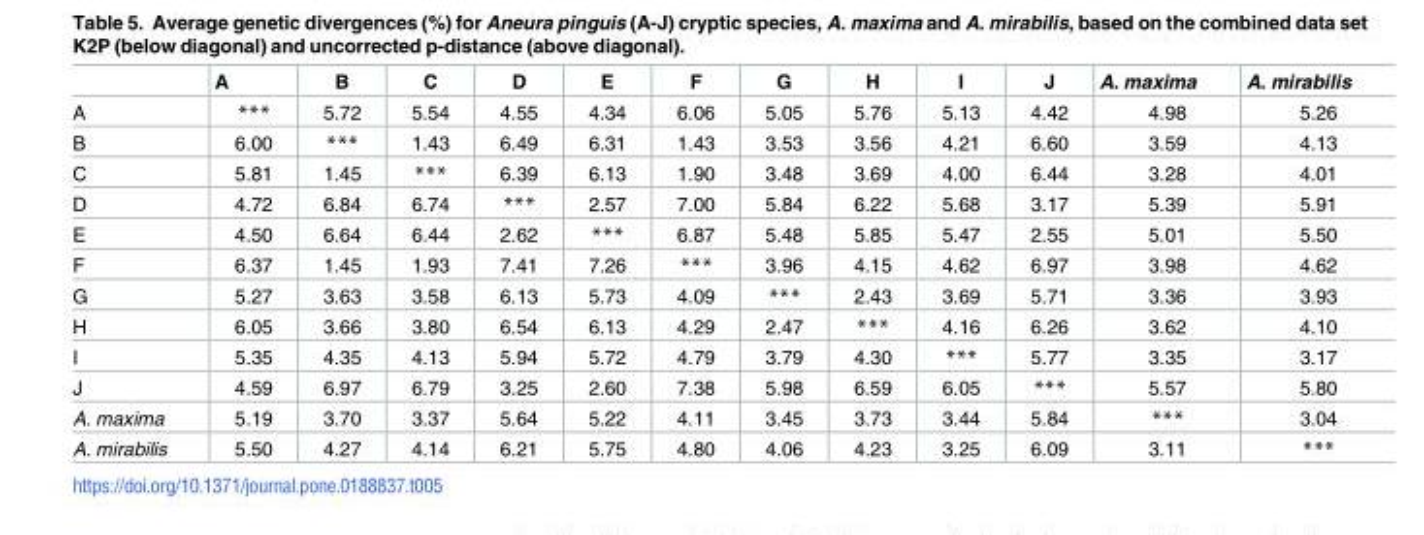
<table><thead><tr><td></td><td>A</td><td>B</td><td>C</td><td>D</td><td>E</td><td>F</td><td>G</td><td>H</td><td>I</td><td>J</td><td>A. maxima</td><td>A. mirabilis</td></tr></thead><tbody><tr><td>A</td><td>***</td><td>5.72</td><td>5.54</td><td>4.55</td><td>4.34</td><td>6.06</td><td>5.05</td><td>5.76</td><td>5.13</td><td>4.42</td><td>4.98</td><td>5.26</td></tr><tr><td>B</td><td>6.00</td><td>***</td><td>1.43</td><td>6.49</td><td>6.31</td><td>1.43</td><td>3.53</td><td>3.56</td><td>4.21</td><td>6.60</td><td>3.59</td><td>4.13</td></tr><tr><td>C</td><td>5.81</td><td>1.45</td><td>***</td><td>6.39</td><td>6.13</td><td>1.90</td><td>3.48</td><td>3.69</td><td>4.00</td><td>6.44</td><td>3.28</td><td>4.01</td></tr><tr><td>D</td><td>4.72</td><td>6.84</td><td>6.74</td><td>***</td><td>2.57</td><td>7.00</td><td>5.84</td><td>6.22</td><td>5.68</td><td>3.17</td><td>5.39</td><td>5.91</td></tr><tr><td>E</td><td>4.50</td><td>6.64</td><td>6.44</td><td>2.62</td><td>***</td><td>6.87</td><td>5.48</td><td>5.85</td><td>5.47</td><td>2.55</td><td>5.01</td><td>5.50</td></tr><tr><td>F</td><td>6.37</td><td>1.45</td><td>1.93</td><td>7.41</td><td>7.26</td><td>***</td><td>3.96</td><td>4.15</td><td>4.62</td><td>6.97</td><td>3.98</td><td>4.62</td></tr><tr><td>G</td><td>5.27</td><td>3.63</td><td>3.58</td><td>6.13</td><td>5.73</td><td>4.09</td><td>***</td><td>2.43</td><td>3.69</td><td>5.71</td><td>3.36</td><td>3.93</td></tr><tr><td>H</td><td>6.05</td><td>3.66</td><td>3.80</td><td>6.54</td><td>6.13</td><td>4.29</td><td>2.47</td><td>***</td><td>4.16</td><td>6.26</td><td>3.62</td><td>4.10</td></tr><tr><td>I</td><td>5.35</td><td>4.35</td><td>4.13</td><td>5.94</td><td>5.72</td><td>4.79</td><td>3.79</td><td>4.30</td><td>***</td><td>5.77</td><td>3.35</td><td>3.17</td></tr><tr><td>J</td><td>4.59</td><td>6.97</td><td>6.79</td><td>3.25</td><td>2.60</td><td>7.38</td><td>5.98</td><td>6.59</td><td>6.05</td><td>***</td><td>5.57</td><td>5.80</td></tr><tr><td>A. maxima</td><td>5.19</td><td>3.70</td><td>3.37</td><td>5.64</td><td>5.22</td><td>4.11</td><td>3.45</td><td>3.73</td><td>3.44</td><td>5.84</td><td>***</td><td>3.04</td></tr><tr><td>A. mirabilis</td><td>5.50</td><td>4.27</td><td>4.14</td><td>6.21</td><td>5.75</td><td>4.80</td><td>4.06</td><td>4.23</td><td>3.25</td><td>6.09</td><td>3.11</td><td>***</td></tr></tbody></table>